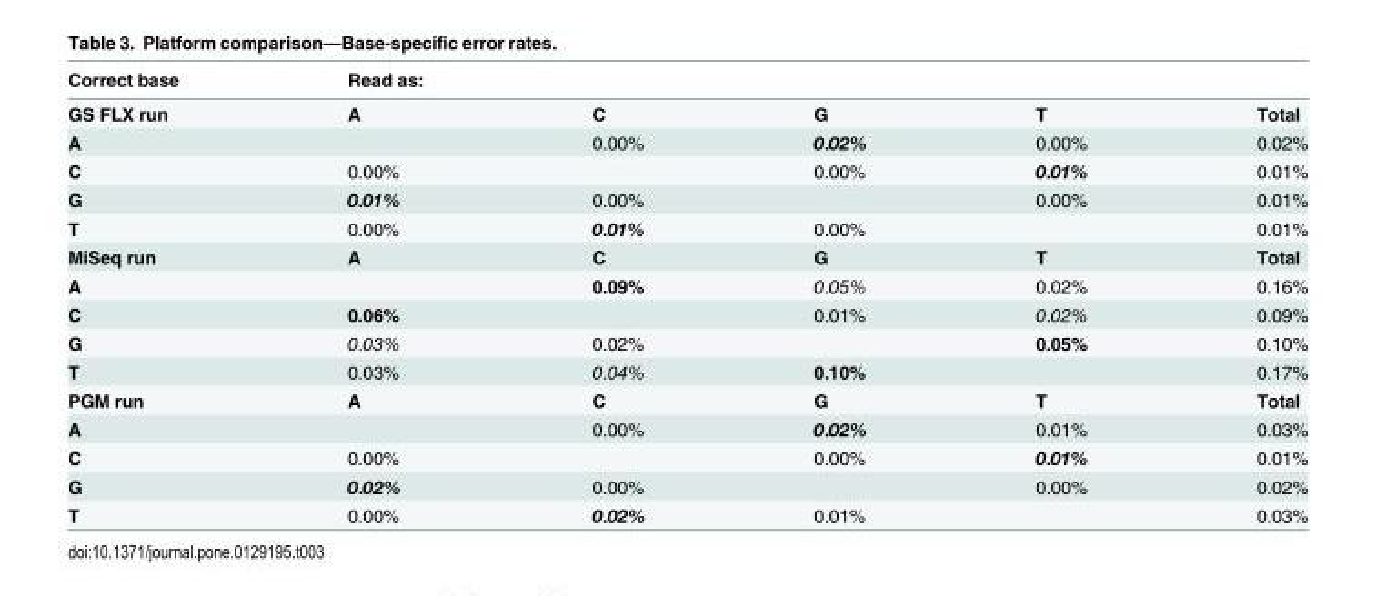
<table><thead><tr><td>Correct base</td><td>Read as:</td><td></td><td></td><td></td><td></td></tr></thead><tbody><tr><td>GS FLX run</td><td>A</td><td>C</td><td>G</td><td>T</td><td>Total</td></tr><tr><td>A</td><td></td><td>0.00%</td><td>0.02%</td><td>0.00%</td><td>0.02%</td></tr><tr><td>C</td><td>0.00%</td><td></td><td>0.00%</td><td>0.01%</td><td>0.01%</td></tr><tr><td>G</td><td>0.01%</td><td>0.00%</td><td></td><td>0.00%</td><td>0.01%</td></tr><tr><td>T</td><td>0.00%</td><td>0.01%</td><td>0.00%</td><td></td><td>0.01%</td></tr><tr><td>MiSeq run</td><td>A</td><td>C</td><td>G</td><td>T</td><td>Total</td></tr><tr><td>A</td><td></td><td>0.09%</td><td>0.05%</td><td>0.02%</td><td>0.16%</td></tr><tr><td>C</td><td>0.06%</td><td></td><td>0.01%</td><td>0.02%</td><td>0.09%</td></tr><tr><td>G</td><td>0.03%</td><td>0.02%</td><td></td><td>0.05%</td><td>0.10%</td></tr><tr><td>T</td><td>0.03%</td><td>0.04%</td><td>0.10%</td><td></td><td>0.17%</td></tr><tr><td>PGM run</td><td>A</td><td>C</td><td>G</td><td>T</td><td>Total</td></tr><tr><td>A</td><td></td><td>0.00%</td><td>0.02%</td><td>0.01%</td><td>0.03%</td></tr><tr><td>C</td><td>0.00%</td><td></td><td>0.00%</td><td>0.01%</td><td>0.01%</td></tr><tr><td>G</td><td>0.02%</td><td>0.00%</td><td></td><td>0.00%</td><td>0.02%</td></tr><tr><td>T</td><td>0.00%</td><td>0.02%</td><td>0.01%</td><td></td><td>0.03%</td></tr></tbody></table>